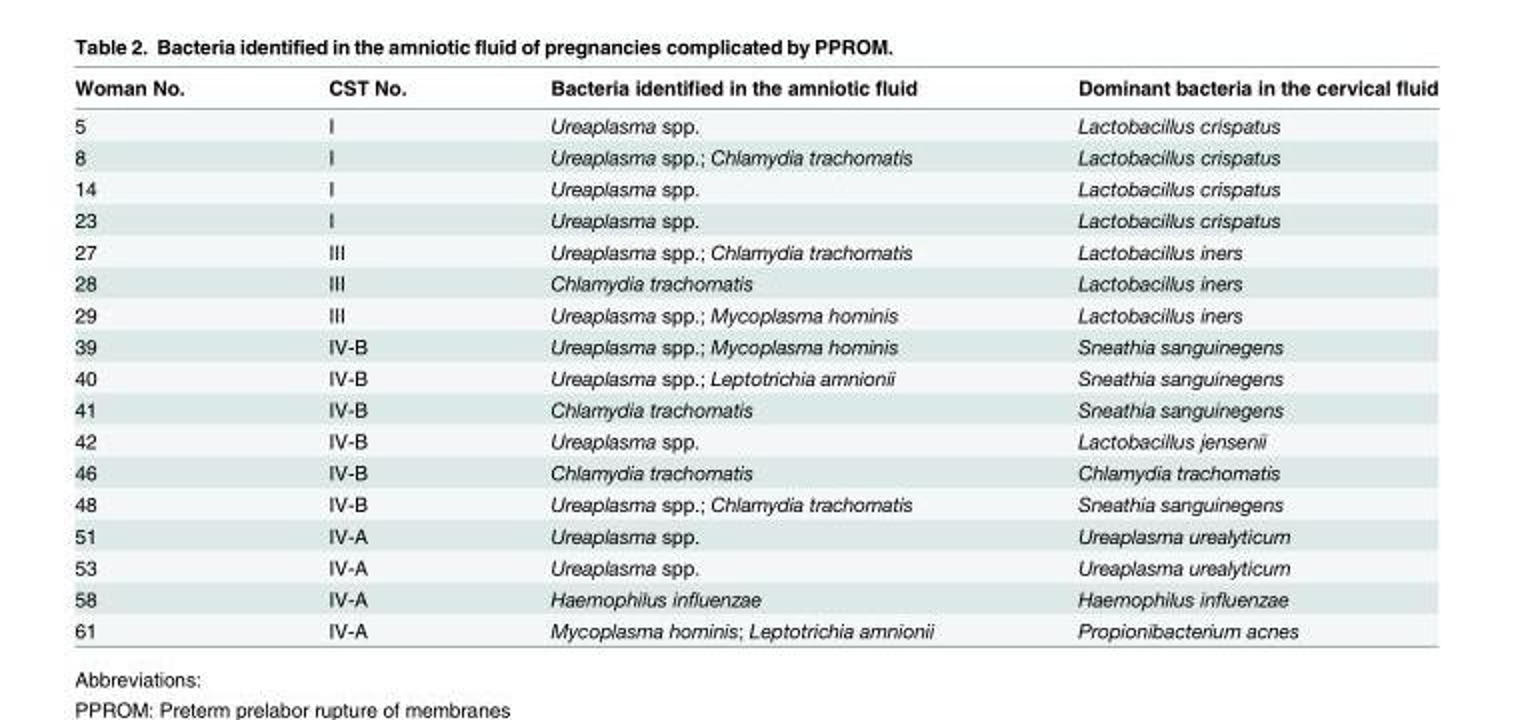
<table><thead><tr><td>Woman No.</td><td>CST No.</td><td>Bacteria identified in the amniotic fluid</td><td>Dominant bacteria in the cervical fluid</td></tr></thead><tbody><tr><td>5</td><td>I</td><td>Ureaplasma spp.</td><td>Lactobacillus crispatus</td></tr><tr><td>8</td><td>I</td><td>Ureaplasma spp.; Chlamydia trachomatis</td><td>Lactobacillus crispatus</td></tr><tr><td>14</td><td>I</td><td>Ureaplasma spp.</td><td>Lactobacillus crispatus</td></tr><tr><td>23</td><td>I</td><td>Ureaplasma spp.</td><td>Lactobacillus crispatus</td></tr><tr><td>27</td><td>III</td><td>Ureaplasma spp.; Chlamydia trachomatis</td><td>Lactobacillus iners</td></tr><tr><td>28</td><td>III</td><td>Chlamydia trachomatis</td><td>Lactobacillus iners</td></tr><tr><td>29</td><td>III</td><td>Ureaplasma spp.; Mycoplasma hominis</td><td>Lactobacillus iners</td></tr><tr><td>39</td><td>IV-B</td><td>Ureaplasma spp.; Mycoplasma hominis</td><td>Sneathia sanguinegens</td></tr><tr><td>40</td><td>IV-B</td><td>Ureaplasma spp.; Leptotrichia amnionii</td><td>Sneathia sanguinegens</td></tr><tr><td>41</td><td>IV-B</td><td>Chlamydia trachomatis</td><td>Sneathia sanguinegens</td></tr><tr><td>42</td><td>IV-B</td><td>Ureaplasma spp.</td><td>Lactobacillus jensenii</td></tr><tr><td>46</td><td>IV-B</td><td>Chlamydia trachomatis</td><td>Chlamydia trachomatis</td></tr><tr><td>48</td><td>IV-B</td><td>Ureaplasma spp.; Chlamydia trachomatis</td><td>Sneathia sanguinegens</td></tr><tr><td>51</td><td>IV-A</td><td>Ureaplasma spp.</td><td>Ureaplasma urealyticum</td></tr><tr><td>53</td><td>IV-A</td><td>Ureaplasma spp.</td><td>Ureaplasma urealyticum</td></tr><tr><td>58</td><td>IV-A</td><td>Haemophilus influenzae</td><td>Haemophilus influenzae</td></tr><tr><td>61</td><td>IV-A</td><td>Mycoplasma hominis; Leptotrichia amnionii</td><td>Propionibacterium acnes</td></tr></tbody></table>